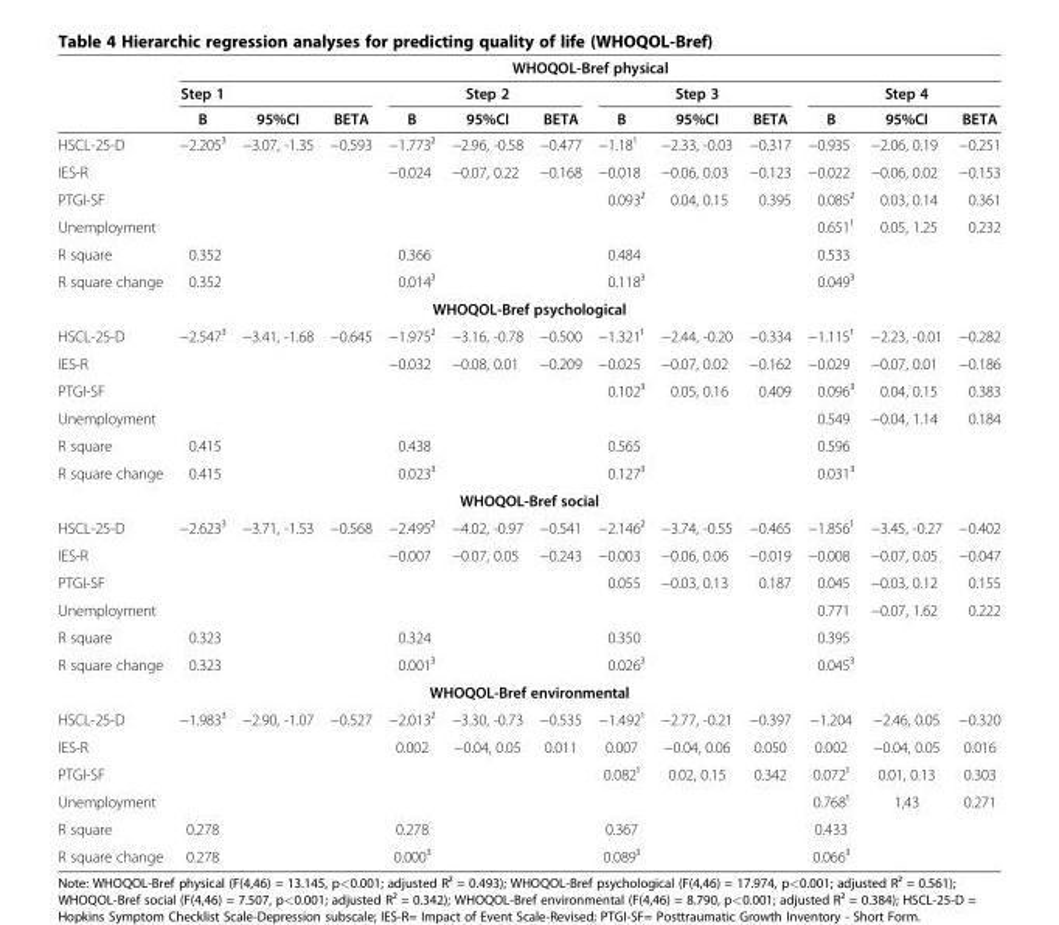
<table><thead><tr><td rowspan="3"></td><td colspan="12">WHOQOL-Bref physical</td></tr><tr><td rowspan="2">Step 1 B</td><td rowspan="2">95%CI</td><td rowspan="2">BETA</td><td rowspan="2">B</td><td rowspan="2">Step 2 95%CI</td><td rowspan="2">BETA</td><td rowspan="2">B</td><td rowspan="2">Step 3 95%CI</td><td rowspan="2">BETA</td><td rowspan="2">B</td><td rowspan="2">Step 4 95%CI</td><td rowspan="2">BETA</td></tr><tr></tr></thead><tbody><tr><td>HSCL-25-D</td><td>−2.205³</td><td>−3.07, -1.35</td><td>−0.593</td><td>−1.773²</td><td>−2.96, -0.58</td><td>−0.477</td><td>−1.18¹</td><td>−2.33, -0.03</td><td>−0.317</td><td>−0.935</td><td>−2.06, 0.19</td><td>−0.251</td></tr><tr><td>IES-R</td><td></td><td></td><td></td><td>−0.024</td><td>−0.07, 0.22</td><td>−0.168</td><td>−0.018</td><td>−0.06, 0.03</td><td>−0.123</td><td>−0.022</td><td>−0.06, 0.02</td><td>−0.153</td></tr><tr><td>PTGI-SF</td><td></td><td></td><td></td><td></td><td></td><td></td><td>0.093²</td><td>0.04, 0.15</td><td>0.395</td><td>0.085²</td><td>0.03, 0.14</td><td>0.361</td></tr><tr><td>Unemployment</td><td></td><td></td><td></td><td></td><td></td><td></td><td></td><td></td><td></td><td>0.651¹</td><td>0.05, 1.25</td><td>0.232</td></tr><tr><td>R square</td><td>0.352</td><td></td><td></td><td>0.366</td><td></td><td></td><td>0.484</td><td></td><td></td><td>0.533</td><td></td><td></td></tr><tr><td>R square change</td><td>0.352</td><td></td><td></td><td>0.014³</td><td></td><td></td><td>0.118³</td><td></td><td></td><td>0.049³</td><td></td><td></td></tr><tr><td colspan="13">WHOQOL-Bref psychological</td></tr><tr><td>HSCL-25-D</td><td>−2.547³</td><td>−3.41, -1.68</td><td>−0.645</td><td>−1.975²</td><td>−3.16, -0.78</td><td>−0.500</td><td>−1.321¹</td><td>−2.44, -0.20</td><td>−0.334</td><td>−1.115¹</td><td>−2.23, -0.01</td><td>−0.282</td></tr><tr><td>IES-R</td><td></td><td></td><td></td><td>−0.032</td><td>−0.08, 0.01</td><td>−0.209</td><td>−0.025</td><td>−0.07, 0.02</td><td>−0.162</td><td>−0.029</td><td>−0.07, 0.01</td><td>−0.186</td></tr><tr><td>PTGI-SF</td><td></td><td></td><td></td><td></td><td></td><td></td><td>0.102³</td><td>0.05, 0.16</td><td>0.409</td><td>0.096³</td><td>0.04, 0.15</td><td>0.383</td></tr><tr><td>Unemployment</td><td></td><td></td><td></td><td></td><td></td><td></td><td></td><td></td><td></td><td>0.549</td><td>−0.04, 1.14</td><td>0.184</td></tr><tr><td>R square</td><td>0.415</td><td></td><td></td><td>0.438</td><td></td><td></td><td>0.565</td><td></td><td></td><td>0.596</td><td></td><td></td></tr><tr><td>R square change</td><td>0.415</td><td></td><td></td><td>0.023³</td><td></td><td></td><td>0.127³</td><td></td><td></td><td>0.031³</td><td></td><td></td></tr><tr><td colspan="13">WHOQOL-Bref social</td></tr><tr><td>HSCL-25-D</td><td>−2.623³</td><td>−3.71, -1.53</td><td>−0.568</td><td>−2.495²</td><td>−4.02, -0.97</td><td>−0.541</td><td>−2.146²</td><td>−3.74, -0.55</td><td>−0.465</td><td>−1.856¹</td><td>−3.45, -0.27</td><td>−0.402</td></tr><tr><td>IES-R</td><td></td><td></td><td></td><td>−0.007</td><td>−0.07, 0.05</td><td>−0.243</td><td>−0.003</td><td>−0.06, 0.06</td><td>−0.019</td><td>−0.008</td><td>−0.07, 0.05</td><td>−0.047</td></tr><tr><td>PTGI-SF</td><td></td><td></td><td></td><td></td><td></td><td></td><td>0.055</td><td>−0.03, 0.13</td><td>0.187</td><td>0.045</td><td>−0.03, 0.12</td><td>0.155</td></tr><tr><td>Unemployment</td><td></td><td></td><td></td><td></td><td></td><td></td><td></td><td></td><td></td><td>0.771</td><td>−0.07, 1.62</td><td>0.222</td></tr><tr><td>R square</td><td>0.323</td><td></td><td></td><td>0.324</td><td></td><td></td><td>0.350</td><td></td><td></td><td>0.395</td><td></td><td></td></tr><tr><td>R square change</td><td>0.323</td><td></td><td></td><td>0.001³</td><td></td><td></td><td>0.026³</td><td></td><td></td><td>0.045³</td><td></td><td></td></tr><tr><td colspan="13">WHOQOL-Bref environmental</td></tr><tr><td>HSCL-25-D</td><td>−1.983³</td><td>−2.90, -1.07</td><td>−0.527</td><td>−2.013²</td><td>−3.30, -0.73</td><td>−0.535</td><td>−1.492¹</td><td>−2.77, -0.21</td><td>−0.397</td><td>−1.204</td><td>−2.46, 0.05</td><td>−0.320</td></tr><tr><td>IES-R</td><td></td><td></td><td></td><td>0.002</td><td>−0.04, 0.05</td><td>0.011</td><td>0.007</td><td>−0.04, 0.06</td><td>0.050</td><td>0.002</td><td>−0.04, 0.05</td><td>0.016</td></tr><tr><td>PTGI-SF</td><td></td><td></td><td></td><td></td><td></td><td></td><td>0.082¹</td><td>0.02, 0.15</td><td>0.342</td><td>0.072¹</td><td>0.01, 0.13</td><td>0.303</td></tr><tr><td>Unemployment</td><td></td><td></td><td></td><td></td><td></td><td></td><td></td><td></td><td></td><td>0.768¹</td><td>1,43</td><td>0.271</td></tr><tr><td>R square</td><td>0.278</td><td></td><td></td><td>0.278</td><td></td><td></td><td>0.367</td><td></td><td></td><td>0.433</td><td></td><td></td></tr><tr><td>R square change</td><td>0.278</td><td></td><td></td><td>0.000³</td><td></td><td></td><td>0.089³</td><td></td><td></td><td>0.066³</td><td></td><td></td></tr></tbody></table>